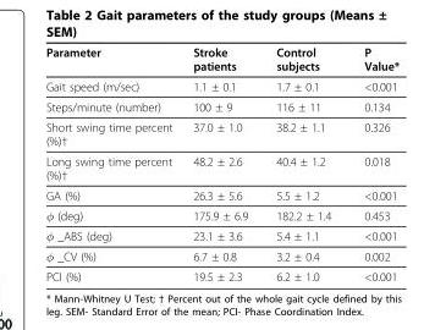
<table><thead><tr><td>Parameter</td><td>Stroke patients</td><td>Control subjects</td><td>P Value*</td></tr></thead><tbody><tr><td>Gait speed (m/sec)</td><td>1.1 ± 0.1</td><td>1.7 ± 0.1</td><td>&lt;0.001</td></tr><tr><td>Steps/minute (number)</td><td>100 ± 9</td><td>116 ± 11</td><td>0.134</td></tr><tr><td>Short swing time percent (%)†</td><td>37.0 ± 1.0</td><td>38.2 ± 1.1</td><td>0.326</td></tr><tr><td>Long swing time percent (%)†</td><td>48.2 ± 2.6</td><td>40.4 ± 1.2</td><td>0.018</td></tr><tr><td>GA (%)</td><td>26.3 ± 5.6</td><td>5.5 ± 1.2</td><td>&lt;0.001</td></tr><tr><td>φ (deg)</td><td>175.9 ± 6.9</td><td>182.2 ± 1.4</td><td>0.453</td></tr><tr><td>φ _ABS (deg)</td><td>23.1 ± 3.6</td><td>5.4 ± 1.1</td><td>&lt;0.001</td></tr><tr><td>φ _CV (%)</td><td>6.7 ± 0.8</td><td>3.2 ± 0.4</td><td>0.002</td></tr><tr><td>PCI (%)</td><td>19.5 ± 2.3</td><td>6.2 ± 1.0</td><td>&lt;0.001</td></tr></tbody></table>